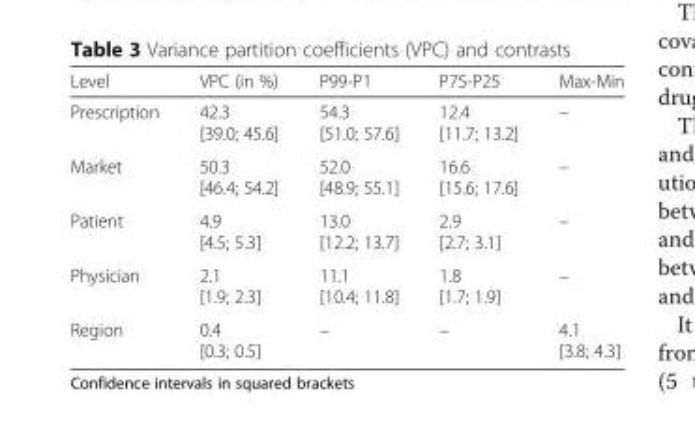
<table><thead><tr><td>Level</td><td>VPC (in %)</td><td>P99-P1</td><td>P75-P25</td><td>Max-Min</td></tr></thead><tbody><tr><td>Prescription</td><td>42.3 [39.0; 45.6]</td><td>54.3 [51.0; 57.6]</td><td>12.4 [11.7; 13.2]</td><td>–</td></tr><tr><td>Market</td><td>50.3 [46.4; 54.2]</td><td>52.0 [48.9; 55.1]</td><td>16.6 [15.6; 17.6]</td><td>–</td></tr><tr><td>Patient</td><td>4.9 [4.5; 5.3]</td><td>13.0 [12.2; 13.7]</td><td>2.9 [2.7; 3.1]</td><td>–</td></tr><tr><td>Physician</td><td>2.1 [1.9; 2.3]</td><td>11.1 [10.4; 11.8]</td><td>1.8 [1.7; 1.9]</td><td>–</td></tr><tr><td>Region</td><td>0.4 [0.3; 0.5]</td><td>–</td><td>–</td><td>4.1 [3.8; 4.3]</td></tr></tbody></table>